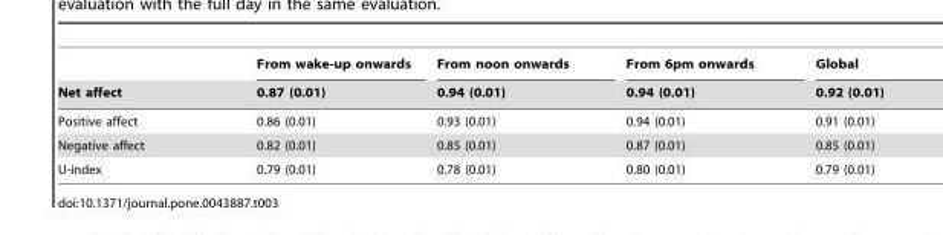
<table><thead><tr><td rowspan="2">Net affect</td><td rowspan="2">From wake-up onwards 0.87 (0.01)</td><td rowspan="2">From noon onwards 0.94 (0.01)</td><td rowspan="2">From 6pm onwards 0.94 (0.01)</td><td rowspan="2">Global 0.92 (0.01)</td></tr><tr></tr></thead><tbody><tr><td>Positive affect</td><td>0.86 (0.01)</td><td>0.93 (0.01)</td><td>0.94 (0.01)</td><td>0.91 (0.01)</td></tr><tr><td>Negative affect</td><td>0.82 (0.01)</td><td>0.85 (0.01)</td><td>0.87 (0.01)</td><td>0.85 (0.01)</td></tr><tr><td>U-index</td><td>0.79 (0.01)</td><td>0.78 (0.01)</td><td>0.80 (0.01)</td><td>0.79 (0.01)</td></tr></tbody></table>